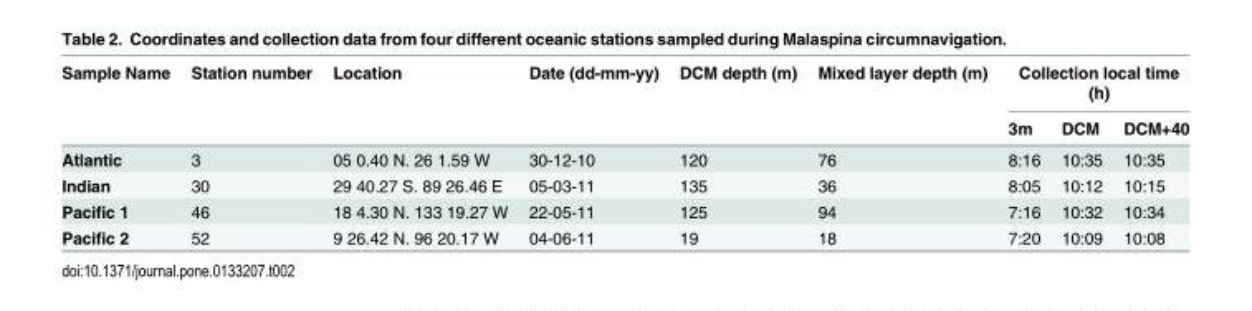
<table><thead><tr><td rowspan="2">Sample Name</td><td rowspan="2">Station number</td><td rowspan="2">Location</td><td rowspan="2">Date (dd-mm-yy)</td><td rowspan="2">DCM depth (m)</td><td rowspan="2">Mixed layer depth (m)</td><td colspan="3">Collection local time (h)</td></tr><tr><td>3m</td><td>DCM</td><td>DCM+40</td></tr></thead><tbody><tr><td>Atlantic</td><td>3</td><td>05 0.40 N. 26 1.59 W</td><td>30-12-10</td><td>120</td><td>76</td><td>8:16</td><td>10:35</td><td>10:35</td></tr><tr><td>Indian</td><td>30</td><td>29 40.27 S. 89 26.46 E</td><td>05-03-11</td><td>135</td><td>36</td><td>8:05</td><td>10:12</td><td>10:15</td></tr><tr><td>Pacific 1</td><td>46</td><td>18 4.30 N. 133 19.27 W</td><td>22-05-11</td><td>125</td><td>94</td><td>7:16</td><td>10:32</td><td>10:34</td></tr><tr><td>Pacific 2</td><td>52</td><td>9 26.42 N. 96 20.17 W</td><td>04-06-11</td><td>19</td><td>18</td><td>7:20</td><td>10:09</td><td>10:08</td></tr></tbody></table>